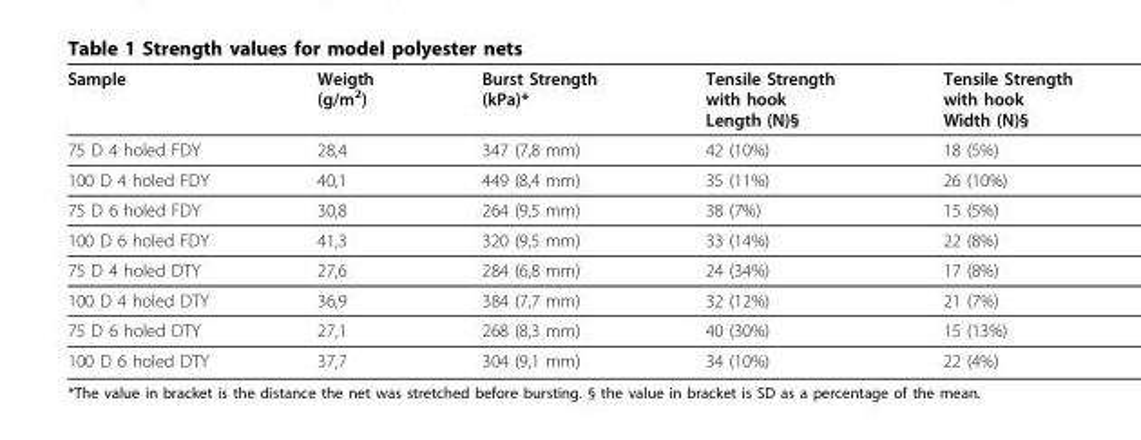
<table><thead><tr><td>Sample</td><td>Weigth (g/m<sup>2</sup>)</td><td>Burst Strength (kPa)*</td><td>Tensile Strength with hook Length (N)§</td><td>Tensile Strength with hook Width (N)§</td></tr></thead><tbody><tr><td>75 D 4 holed FDY</td><td>28,4</td><td>347 (7,8 mm)</td><td>42 (10%)</td><td>18 (5%)</td></tr><tr><td>100 D 4 holed FDY</td><td>40,1</td><td>449 (8,4 mm)</td><td>35 (11%)</td><td>26 (10%)</td></tr><tr><td>75 D 6 holed FDY</td><td>30,8</td><td>264 (9,5 mm)</td><td>38 (7%)</td><td>15 (5%)</td></tr><tr><td>100 D 6 holed FDY</td><td>41,3</td><td>320 (9,5 mm)</td><td>33 (14%)</td><td>22 (8%)</td></tr><tr><td>75 D 4 holed DTY</td><td>27,6</td><td>284 (6,8 mm)</td><td>24 (34%)</td><td>17 (8%)</td></tr><tr><td>100 D 4 holed DTY</td><td>36,9</td><td>384 (7,7 mm)</td><td>32 (12%)</td><td>21 (7%)</td></tr><tr><td>75 D 6 holed DTY</td><td>27,1</td><td>268 (8,3 mm)</td><td>40 (30%)</td><td>15 (13%)</td></tr><tr><td>100 D 6 holed DTY</td><td>37,7</td><td>304 (9,1 mm)</td><td>34 (10%)</td><td>22 (4%)</td></tr></tbody></table>